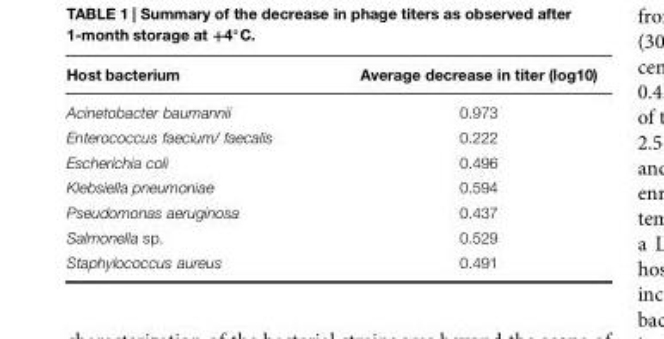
<table><thead><tr><td>Host bacterium</td><td>Average decrease in titer (log10)</td></tr></thead><tbody><tr><td>Acinetobacter baumannii</td><td>0.973</td></tr><tr><td>Enterococcus faecium/ faecalis</td><td>0.222</td></tr><tr><td>Escherichia coli</td><td>0.496</td></tr><tr><td>Klebsiella pneumoniae</td><td>0.594</td></tr><tr><td>Pseudomonas aeruginosa</td><td>0.437</td></tr><tr><td>Salmonella sp.</td><td>0.529</td></tr><tr><td>Staphylococcus aureus</td><td>0.491</td></tr></tbody></table>